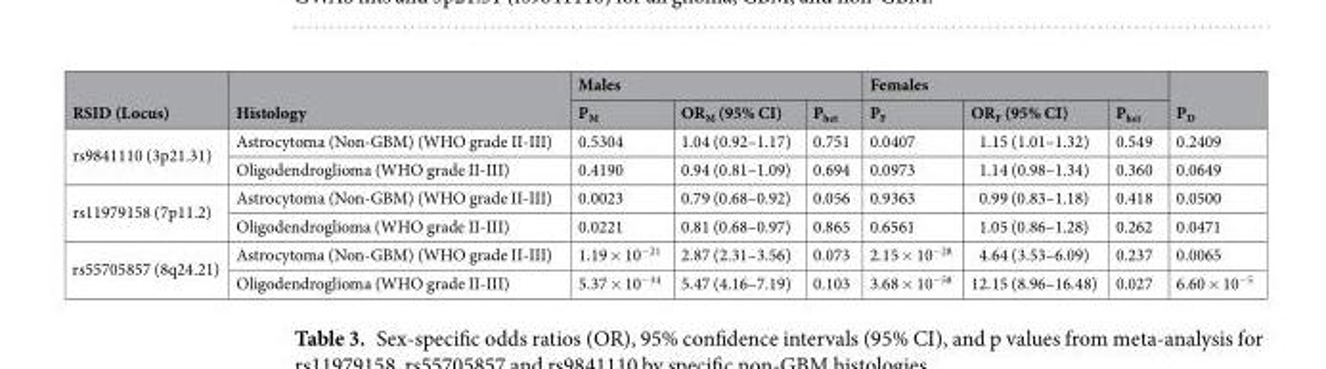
<table><thead><tr><td rowspan="2">RSID (Locus)</td><td rowspan="2">Histology</td><td colspan="3">Males</td><td colspan="3">Females</td><td rowspan="2">P<sub>D</sub></td></tr><tr><td>P<sub>M</sub></td><td>OR<sub>M</sub> (95% CI)</td><td>P<sub>het</sub></td><td>P<sub>F</sub></td><td>OR<sub>F</sub> (95% CI)</td><td>P<sub>het</sub></td></tr></thead><tbody><tr><td rowspan="2">rs9841110 (3p21.31)</td><td>Astrocytoma (Non-GBM) (WHO grade II-III)</td><td>0.5304</td><td>1.04 (0.92–1.17)</td><td>0.751</td><td>0.0407</td><td>1.15 (1.01–1.32)</td><td>0.549</td><td>0.2409</td></tr><tr><td>Oligodendroglioma (WHO grade II-III)</td><td>0.4190</td><td>0.94 (0.81–1.09)</td><td>0.694</td><td>0.0973</td><td>1.14 (0.98–1.34)</td><td>0.360</td><td>0.0649</td></tr><tr><td rowspan="2">rs11979158 (7p11.2)</td><td>Astrocytoma (Non-GBM) (WHO grade II-III)</td><td>0.0023</td><td>0.79 (0.68–0.92)</td><td>0.056</td><td>0.9363</td><td>0.99 (0.83–1.18)</td><td>0.418</td><td>0.0500</td></tr><tr><td>Oligodendroglioma (WHO grade II-III)</td><td>0.0221</td><td>0.81 (0.68–0.97)</td><td>0.865</td><td>0.6561</td><td>1.05 (0.86–1.28)</td><td>0.262</td><td>0.0471</td></tr><tr><td rowspan="2">rs55705857 (8q24.21)</td><td>Astrocytoma (Non-GBM) (WHO grade II-III)</td><td>1.19 × 10<sup>−21</sup></td><td>2.87 (2.31–3.56)</td><td>0.073</td><td>2.15 × 10<sup>−28</sup></td><td>4.64 (3.53–6.09)</td><td>0.237</td><td>0.0065</td></tr><tr><td>Oligodendroglioma (WHO grade II-III)</td><td>5.37 × 10<sup>−34</sup></td><td>5.47 (4.16–7.19)</td><td>0.103</td><td>3.68 × 10<sup>−58</sup></td><td>12.15 (8.96–16.48)</td><td>0.027</td><td>6.60 × 10<sup>−5</sup></td></tr></tbody></table>